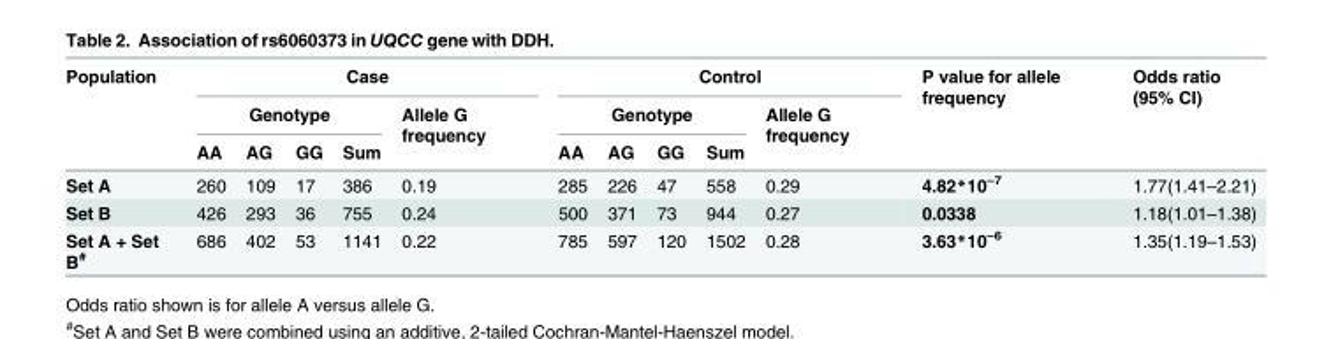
<table><thead><tr><td rowspan="3">Population</td><td colspan="5">Case</td><td colspan="5">Control</td><td rowspan="3">P value for allele frequency</td><td rowspan="3">Odds ratio (95% CI)</td></tr><tr><td colspan="4">Genotype</td><td rowspan="2">Allele G frequency</td><td colspan="4">Genotype</td><td rowspan="2">Allele G frequency</td></tr><tr><td>AA</td><td>AG</td><td>GG</td><td>Sum</td><td>AA</td><td>AG</td><td>GG</td><td>Sum</td></tr></thead><tbody><tr><td>Set A</td><td>260</td><td>109</td><td>17</td><td>386</td><td>0.19</td><td>285</td><td>226</td><td>47</td><td>558</td><td>0.29</td><td>4.82*10<sup>–7</sup></td><td>1.77(1.41–2.21)</td></tr><tr><td>Set B</td><td>426</td><td>293</td><td>36</td><td>755</td><td>0.24</td><td>500</td><td>371</td><td>73</td><td>944</td><td>0.27</td><td>0.0338</td><td>1.18(1.01–1.38)</td></tr><tr><td>Set A + Set B<sup>#</sup></td><td>686</td><td>402</td><td>53</td><td>1141</td><td>0.22</td><td>785</td><td>597</td><td>120</td><td>1502</td><td>0.28</td><td>3.63*10<sup>–6</sup></td><td>1.35(1.19–1.53)</td></tr></tbody></table>